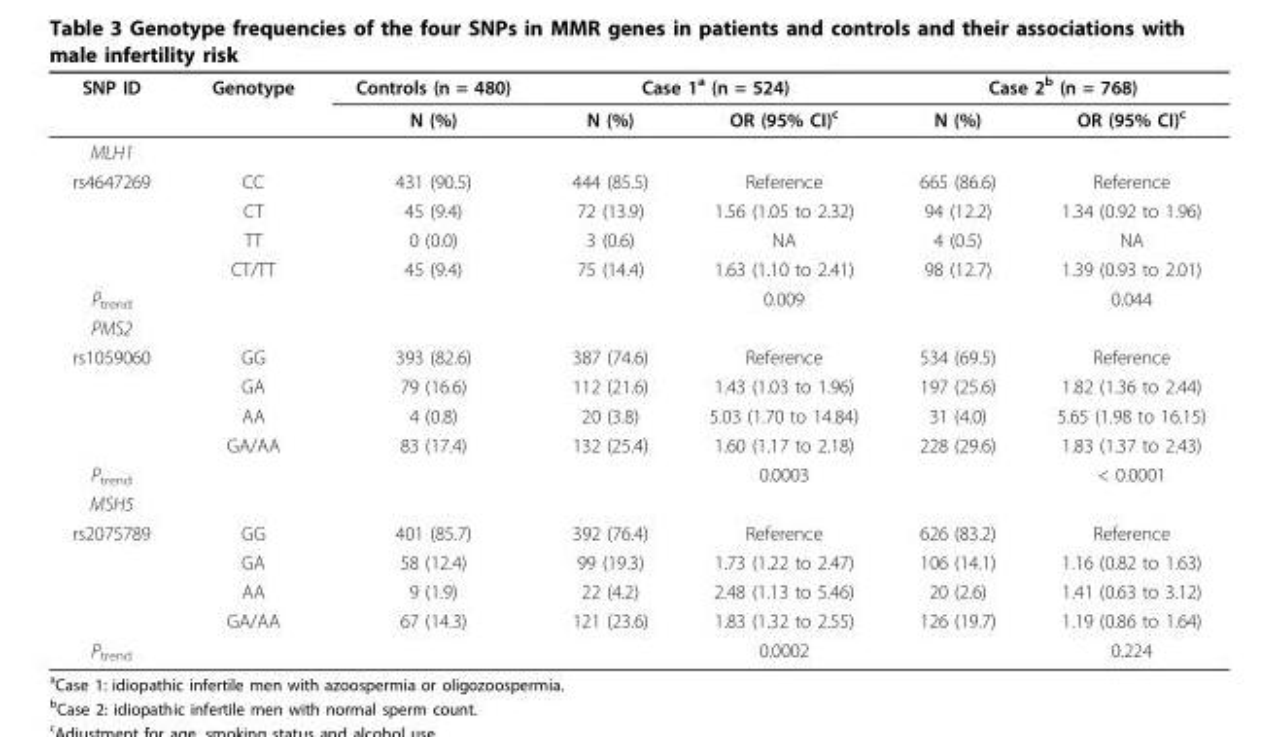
<table><thead><tr><td rowspan="2">SNP ID</td><td rowspan="2">Genotype</td><td rowspan="2">Controls (n = 480) N (%)</td><td colspan="2">Case 1<sup>a</sup> (n = 524)</td><td colspan="2">Case 2<sup>b</sup> (n = 768)</td></tr><tr><td>N (%)</td><td>OR (95% CI)<sup>c</sup></td><td>N (%)</td><td>OR (95% CI)<sup>c</sup></td></tr></thead><tbody><tr><td colspan="7">MLH1</td></tr><tr><td rowspan="4">rs4647269</td><td>CC</td><td>431 (90.5)</td><td>444 (85.5)</td><td>Reference</td><td>665 (86.6)</td><td>Reference</td></tr><tr><td>CT</td><td>45 (9.4)</td><td>72 (13.9)</td><td>1.56 (1.05 to 2.32)</td><td>94 (12.2)</td><td>1.34 (0.92 to 1.96)</td></tr><tr><td>TT</td><td>0 (0.0)</td><td>3 (0.6)</td><td>NA</td><td>4 (0.5)</td><td>NA</td></tr><tr><td>CT/TT</td><td>45 (9.4)</td><td>75 (14.4)</td><td>1.63 (1.10 to 2.41)</td><td>98 (12.7)</td><td>1.39 (0.93 to 2.01)</td></tr><tr><td>P<sub>trend</sub></td><td></td><td></td><td></td><td>0.009</td><td></td><td>0.044</td></tr><tr><td colspan="7">PMS2</td></tr><tr><td rowspan="4">rs1059060</td><td>GG</td><td>393 (82.6)</td><td>387 (74.6)</td><td>Reference</td><td>534 (69.5)</td><td>Reference</td></tr><tr><td>GA</td><td>79 (16.6)</td><td>112 (21.6)</td><td>1.43 (1.03 to 1.96)</td><td>197 (25.6)</td><td>1.82 (1.36 to 2.44)</td></tr><tr><td>AA</td><td>4 (0.8)</td><td>20 (3.8)</td><td>5.03 (1.70 to 14.84)</td><td>31 (4.0)</td><td>5.65 (1.98 to 16.15)</td></tr><tr><td>GA/AA</td><td>83 (17.4)</td><td>132 (25.4)</td><td>1.60 (1.17 to 2.18)</td><td>228 (29.6)</td><td>1.83 (1.37 to 2.43)</td></tr><tr><td>P<sub>trend</sub></td><td></td><td></td><td></td><td>0.0003</td><td></td><td>&lt; 0.0001</td></tr><tr><td colspan="7">MSH5</td></tr><tr><td rowspan="4">rs2075789</td><td>GG</td><td>401 (85.7)</td><td>392 (76.4)</td><td>Reference</td><td>626 (83.2)</td><td>Reference</td></tr><tr><td>GA</td><td>58 (12.4)</td><td>99 (19.3)</td><td>1.73 (1.22 to 2.47)</td><td>106 (14.1)</td><td>1.16 (0.82 to 1.63)</td></tr><tr><td>AA</td><td>9 (1.9)</td><td>22 (4.2)</td><td>2.48 (1.13 to 5.46)</td><td>20 (2.6)</td><td>1.41 (0.63 to 3.12)</td></tr><tr><td>GA/AA</td><td>67 (14.3)</td><td>121 (23.6)</td><td>1.83 (1.32 to 2.55)</td><td>126 (19.7)</td><td>1.19 (0.86 to 1.64)</td></tr><tr><td>P<sub>trend</sub></td><td></td><td></td><td></td><td>0.0002</td><td></td><td>0.224</td></tr></tbody></table>